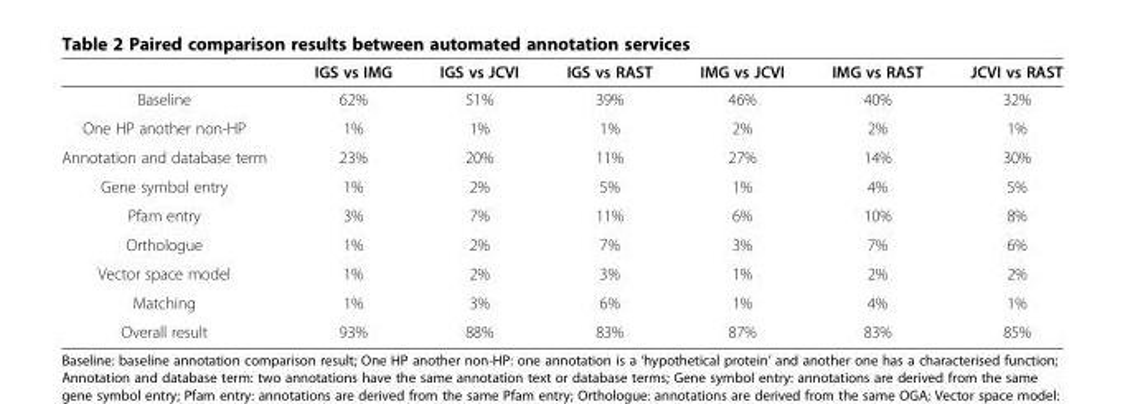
<table><thead><tr><td></td><td>IGS vs IMG</td><td>IGS vs JCVI</td><td>IGS vs RAST</td><td>IMG vs JCVI</td><td>IMG vs RAST</td><td>JCVI vs RAST</td></tr></thead><tbody><tr><td>Baseline</td><td>62%</td><td>51%</td><td>39%</td><td>46%</td><td>40%</td><td>32%</td></tr><tr><td>One HP another non-HP</td><td>1%</td><td>1%</td><td>1%</td><td>2%</td><td>2%</td><td>1%</td></tr><tr><td>Annotation and database term</td><td>23%</td><td>20%</td><td>11%</td><td>27%</td><td>14%</td><td>30%</td></tr><tr><td>Gene symbol entry</td><td>1%</td><td>2%</td><td>5%</td><td>1%</td><td>4%</td><td>5%</td></tr><tr><td>Pfam entry</td><td>3%</td><td>7%</td><td>11%</td><td>6%</td><td>10%</td><td>8%</td></tr><tr><td>Orthologue</td><td>1%</td><td>2%</td><td>7%</td><td>3%</td><td>7%</td><td>6%</td></tr><tr><td>Vector space model</td><td>1%</td><td>2%</td><td>3%</td><td>1%</td><td>2%</td><td>2%</td></tr><tr><td>Matching</td><td>1%</td><td>3%</td><td>6%</td><td>1%</td><td>4%</td><td>1%</td></tr><tr><td>Overall result</td><td>93%</td><td>88%</td><td>83%</td><td>87%</td><td>83%</td><td>85%</td></tr></tbody></table>